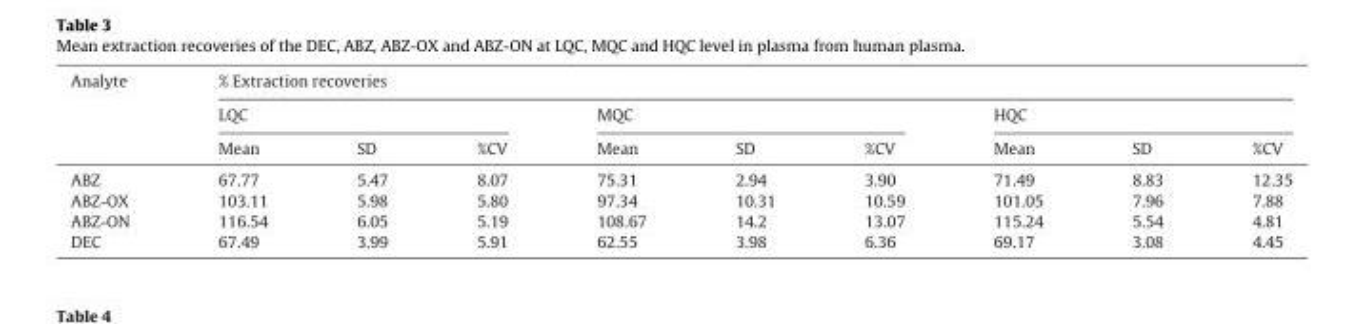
<table><thead><tr><td rowspan="3">Analyte</td><td colspan="9">% Extraction recoveries</td></tr><tr><td colspan="3">LQC</td><td colspan="3">MQC</td><td colspan="3">HQC</td></tr><tr><td>Mean</td><td>SD</td><td>%CV</td><td>Mean</td><td>SD</td><td>%CV</td><td>Mean</td><td>SD</td><td>%CV</td></tr></thead><tbody><tr><td>ABZ</td><td>67.77</td><td>5.47</td><td>8.07</td><td>75.31</td><td>2.94</td><td>3.90</td><td>71.49</td><td>8.83</td><td>12.35</td></tr><tr><td>ABZ-OX</td><td>103.11</td><td>5.98</td><td>5.80</td><td>97.34</td><td>10.31</td><td>10.59</td><td>101.05</td><td>7.96</td><td>7.88</td></tr><tr><td>ABZ-ON</td><td>116.54</td><td>6.05</td><td>5.19</td><td>108.67</td><td>14.2</td><td>13.07</td><td>115.24</td><td>5.54</td><td>4.81</td></tr><tr><td>DEC</td><td>67.49</td><td>3.99</td><td>5.91</td><td>62.55</td><td>3.98</td><td>6.36</td><td>69.17</td><td>3.08</td><td>4.45</td></tr></tbody></table>